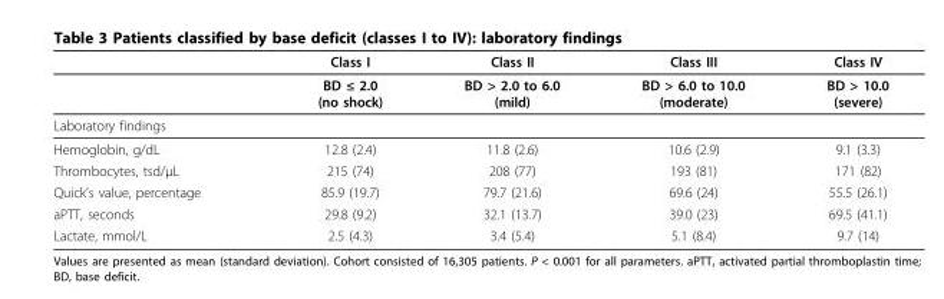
<table><thead><tr><td></td><td>Class I</td><td>Class II</td><td>Class III</td><td>Class IV</td></tr></thead><tbody><tr><td></td><td>BD ≤ 2.0 (no shock)</td><td>BD &gt; 2.0 to 6.0 (mild)</td><td>BD &gt; 6.0 to 10.0 (moderate)</td><td>BD &gt; 10.0 (severe)</td></tr><tr><td colspan="5">Laboratory findings</td></tr><tr><td>Hemoglobin, g/dL</td><td>12.8 (2.4)</td><td>11.8 (2.6)</td><td>10.6 (2.9)</td><td>9.1 (3.3)</td></tr><tr><td>Thrombocytes, tsd/μL</td><td>215 (74)</td><td>208 (77)</td><td>193 (81)</td><td>171 (82)</td></tr><tr><td>Quick’s value, percentage</td><td>85.9 (19.7)</td><td>79.7 (21.6)</td><td>69.6 (24)</td><td>55.5 (26.1)</td></tr><tr><td>aPTT, seconds</td><td>29.8 (9.2)</td><td>32.1 (13.7)</td><td>39.0 (23)</td><td>69.5 (41.1)</td></tr><tr><td>Lactate, mmol/L</td><td>2.5 (4.3)</td><td>3.4 (5.4)</td><td>5.1 (8.4)</td><td>9.7 (14)</td></tr></tbody></table>